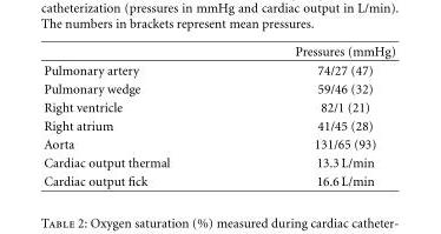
<table><thead><tr><td></td><td>Pressures (mmHg)</td></tr></thead><tbody><tr><td>Pulmonary artery</td><td>74/27 (47)</td></tr><tr><td>Pulmonary wedge</td><td>59/46 (32)</td></tr><tr><td>Right ventricle</td><td>82/1 (21)</td></tr><tr><td>Right atrium</td><td>41/45 (28)</td></tr><tr><td>Aorta</td><td>131/65 (93)</td></tr><tr><td>Cardiac output thermal</td><td>13.3 L/min</td></tr><tr><td>Cardiac output fick</td><td>16.6 L/min</td></tr></tbody></table>